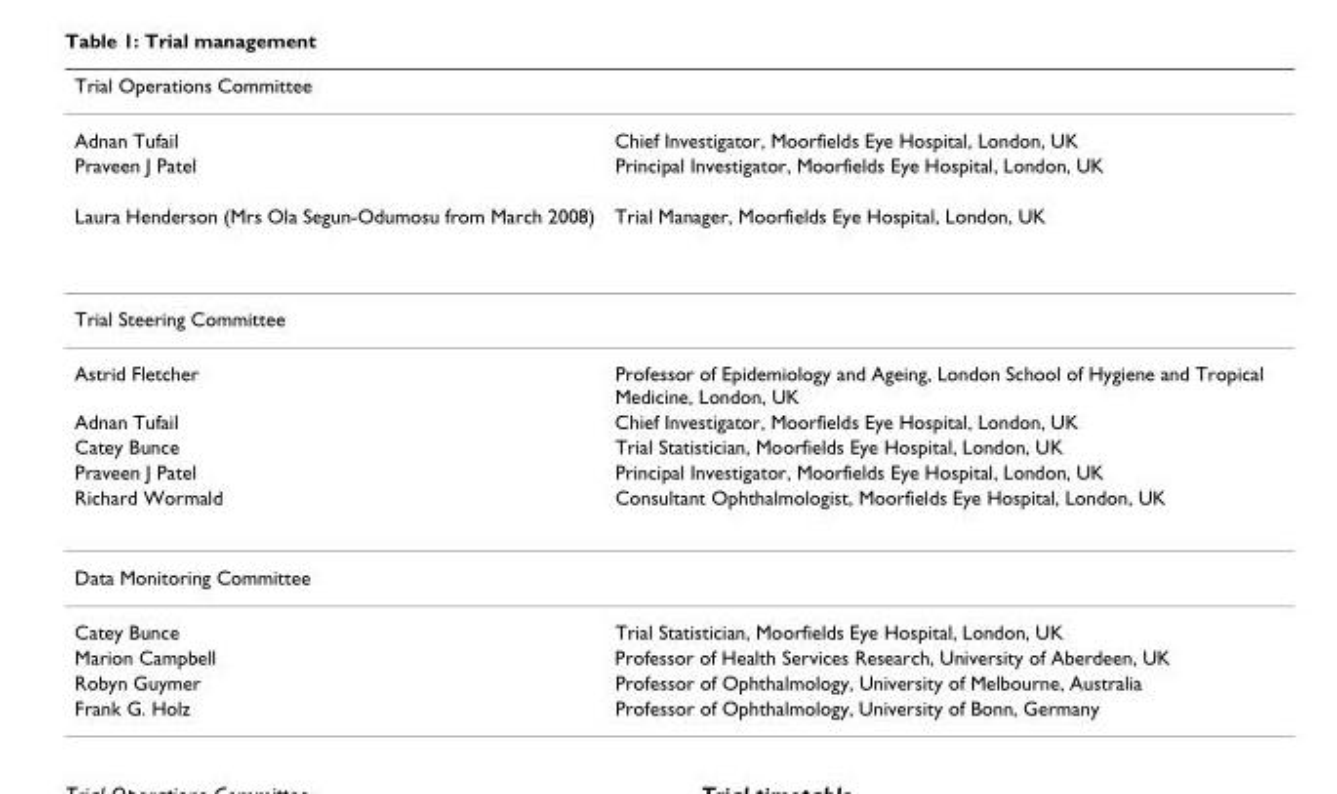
<table><thead><tr><td>Trial Operations Committee</td><td></td></tr></thead><tbody><tr><td>Adnan Tufail</td><td>Chief Investigator, Moorfields Eye Hospital, London, UK</td></tr><tr><td>Praveen J Patel</td><td>Principal Investigator, Moorfields Eye Hospital, London, UK</td></tr><tr><td>Laura Henderson (Mrs Ola Segun-Odumosu from March 2008)</td><td>Trial Manager, Moorfields Eye Hospital, London, UK</td></tr><tr><td colspan="2">Trial Steering Committee</td></tr><tr><td>Astrid Fletcher</td><td>Professor of Epidemiology and Ageing, London School of Hygiene and Tropical Medicine, London, UK</td></tr><tr><td>Adnan Tufail</td><td>Chief Investigator, Moorfields Eye Hospital, London, UK</td></tr><tr><td>Catey Bunce</td><td>Trial Statistician, Moorfields Eye Hospital, London, UK</td></tr><tr><td>Praveen J Patel</td><td>Principal Investigator, Moorfields Eye Hospital, London, UK</td></tr><tr><td>Richard Wormald</td><td>Consultant Ophthalmologist, Moorfields Eye Hospital, London, UK</td></tr><tr><td colspan="2">Data Monitoring Committee</td></tr><tr><td>Catey Bunce</td><td>Trial Statistician, Moorfields Eye Hospital, London, UK</td></tr><tr><td>Marion Campbell</td><td>Professor of Health Services Research, University of Aberdeen, UK</td></tr><tr><td>Robyn Guymer</td><td>Professor of Ophthalmology, University of Melbourne, Australia</td></tr><tr><td>Frank G. Holz</td><td>Professor of Ophthalmology, University of Bonn, Germany</td></tr></tbody></table>